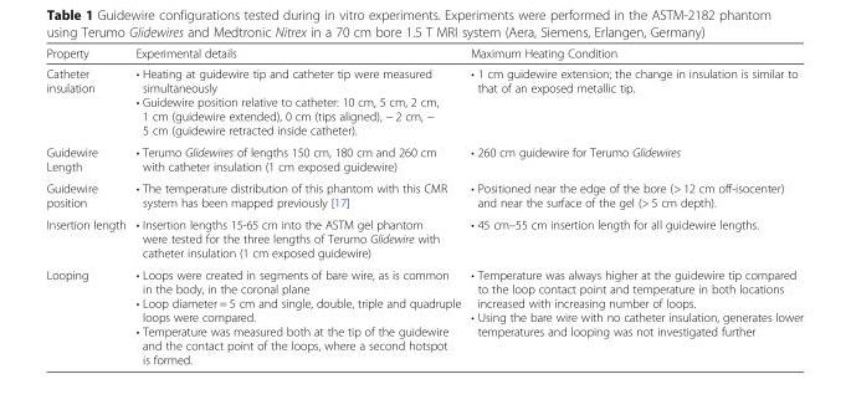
<table><thead><tr><td>Property</td><td>Experimental details</td><td>Maximum Heating Condition</td></tr></thead><tbody><tr><td>Catheter insulation</td><td>• Heating at guidewire tip and catheter tip were measured simultaneously • Guidewire position relative to catheter: 10 cm, 5 cm, 2 cm, 1 cm (guidewire extended), 0 cm (tips aligned), − 2 cm, − 5 cm (guidewire retracted inside catheter).</td><td>• 1 cm guidewire extension; the change in insulation is similar to that of an exposed metallic tip.</td></tr><tr><td>Guidewire Length</td><td>• Terumo Glidewires of lengths 150 cm, 180 cm and 260 cm with catheter insulation (1 cm exposed guidewire)</td><td>• 260 cm guidewire for Terumo Glidewires</td></tr><tr><td>Guidewire position</td><td>• The temperature distribution of this phantom with this CMR system has been mapped previously [17]</td><td>• Positioned near the edge of the bore (&gt; 12 cm off-isocenter) and near the surface of the gel (&gt; 5 cm depth).</td></tr><tr><td>Insertion length</td><td>• Insertion lengths 15-65 cm into the ASTM gel phantom were tested for the three lengths of Terumo Glidewire with catheter insulation (1 cm exposed guidewire)</td><td>• 45 cm–55 cm insertion length for all guidewire lengths.</td></tr><tr><td>Looping</td><td>• Loops were created in segments of bare wire, as is common in the body, in the coronal plane • Loop diameter = 5 cm and single, double, triple and quadruple loops were compared. • Temperature was measured both at the tip of the guidewire and the contact point of the loops, where a second hotspot is formed.</td><td>• Temperature was always higher at the guidewire tip compared to the loop contact point and temperature in both locations increased with increasing number of loops. • Using the bare wire with no catheter insulation, generates lower temperatures and looping was not investigated further</td></tr></tbody></table>